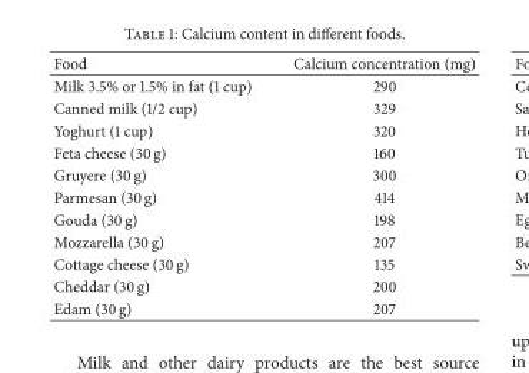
<table><thead><tr><td>Food</td><td>Calcium concentration (mg)</td></tr></thead><tbody><tr><td>Milk 3.5% or 1.5% in fat (1 cup)</td><td>290</td></tr><tr><td>Canned milk (1/2 cup)</td><td>329</td></tr><tr><td>Yoghurt (1 cup)</td><td>320</td></tr><tr><td>Feta cheese (30 g)</td><td>160</td></tr><tr><td>Gruyere (30 g)</td><td>300</td></tr><tr><td>Parmesan (30 g)</td><td>414</td></tr><tr><td>Gouda (30 g)</td><td>198</td></tr><tr><td>Mozzarella (30 g)</td><td>207</td></tr><tr><td>Cottage cheese (30 g)</td><td>135</td></tr><tr><td>Cheddar (30 g)</td><td>200</td></tr><tr><td>Edam (30 g)</td><td>207</td></tr></tbody></table>